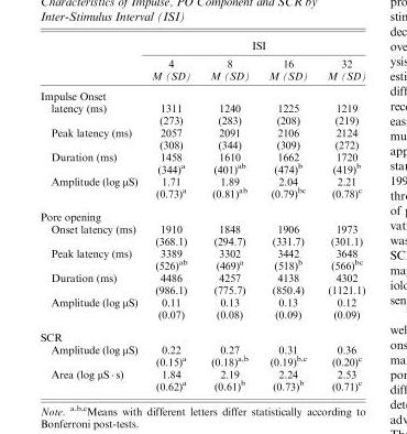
<table><thead><tr><td rowspan="3"></td><td colspan="4">ISI</td></tr><tr><td rowspan="2">4 M (SD)</td><td rowspan="2">8 M (SD)</td><td rowspan="2">16 M (SD)</td><td rowspan="2">32 M (SD)</td></tr><tr></tr></thead><tbody><tr><td colspan="5">Impulse Onset</td></tr><tr><td>latency (ms)</td><td>1311 (273)</td><td>1240 (283)</td><td>1225 (208)</td><td>1219 (219)</td></tr><tr><td>Peak latency (ms)</td><td>2057 (308)</td><td>2091 (344)</td><td>2106 (309)</td><td>2124 (272)</td></tr><tr><td>Duration (ms)</td><td>1458 (344)<sup>a</sup></td><td>1610 (401)<sup>ab</sup></td><td>1662 (474)<sup>b</sup></td><td>1720 (419)<sup>b</sup></td></tr><tr><td>Amplitude (log μS)</td><td>1.71 (0.73)<sup>a</sup></td><td>1.89 (0.81)<sup>ab</sup></td><td>2.04 (0.79)<sup>bc</sup></td><td>2.21 (0.78)<sup>c</sup></td></tr><tr><td colspan="5">Pore opening</td></tr><tr><td>Onset latency (ms)</td><td>1910 (368.1)</td><td>1848 (294.7)</td><td>1906 (331.7)</td><td>1973 (301.1)</td></tr><tr><td>Peak latency (ms)</td><td>3389 (526)<sup>ab</sup></td><td>3302 (469)<sup>a</sup></td><td>3442 (518)<sup>b</sup></td><td>3648 (566)<sup>bc</sup></td></tr><tr><td>Duration (ms)</td><td>4486 (986.1)</td><td>4257 (775.7)</td><td>4138 (850.4)</td><td>4302 (1121.1)</td></tr><tr><td>Amplitude (log μS)</td><td>0.11 (0.07)</td><td>0.13 (0.08)</td><td>0.13 (0.09)</td><td>0.12 (0.09)</td></tr><tr><td colspan="5">SCR</td></tr><tr><td>Amplitude (log μS)</td><td>0.22 (0.15)<sup>a</sup></td><td>0.27 (0.18)<sup>a,b</sup></td><td>0.31 (0.19)<sup>b,c</sup></td><td>0.36 (0.20)<sup>c</sup></td></tr><tr><td>Area (log μS · s)</td><td>1.84 (0.62)<sup>a</sup></td><td>2.19 (0.61)<sup>b</sup></td><td>2.24 (0.73)<sup>b</sup></td><td>2.53 (0.71)<sup>c</sup></td></tr></tbody></table>